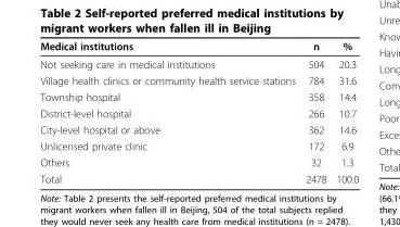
<table><thead><tr><td>Medical institutions</td><td>n</td><td>%</td></tr></thead><tbody><tr><td>Not seeking care in medical institutions</td><td>504</td><td>20.3</td></tr><tr><td>Village health clinics or community health service stations</td><td>784</td><td>31.6</td></tr><tr><td>Township hospital</td><td>358</td><td>14.4</td></tr><tr><td>District-level hospital</td><td>266</td><td>10.7</td></tr><tr><td>City-level hospital or above</td><td>362</td><td>14.6</td></tr><tr><td>Unlicensed private clinic</td><td>172</td><td>6.9</td></tr><tr><td>Others</td><td>32</td><td>1.3</td></tr><tr><td>Total</td><td>2478</td><td>100.0</td></tr></tbody></table>